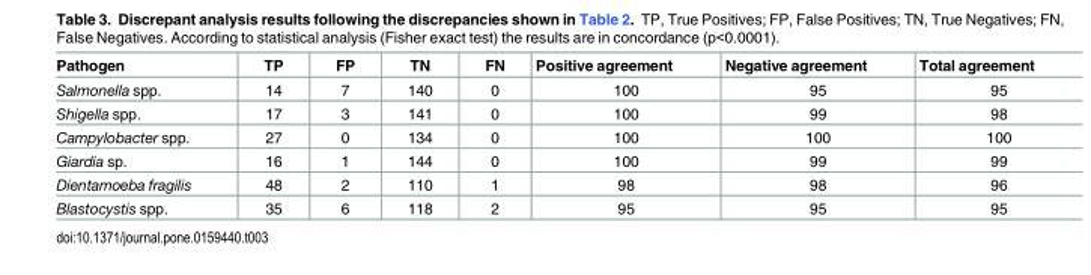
<table><thead><tr><td>Pathogen</td><td>TP</td><td>FP</td><td>TN</td><td>FN</td><td>Positive agreement</td><td>Negative agreement</td><td>Total agreement</td></tr></thead><tbody><tr><td>Salmonella spp.</td><td>14</td><td>7</td><td>140</td><td>0</td><td>100</td><td>95</td><td>95</td></tr><tr><td>Shigella spp.</td><td>17</td><td>3</td><td>141</td><td>0</td><td>100</td><td>99</td><td>98</td></tr><tr><td>Campylobacter spp.</td><td>27</td><td>0</td><td>134</td><td>0</td><td>100</td><td>100</td><td>100</td></tr><tr><td>Giardia sp.</td><td>16</td><td>1</td><td>144</td><td>0</td><td>100</td><td>99</td><td>99</td></tr><tr><td>Dientamoeba fragilis</td><td>48</td><td>2</td><td>110</td><td>1</td><td>98</td><td>98</td><td>96</td></tr><tr><td>Blastocystis spp.</td><td>35</td><td>6</td><td>118</td><td>2</td><td>95</td><td>95</td><td>95</td></tr></tbody></table>